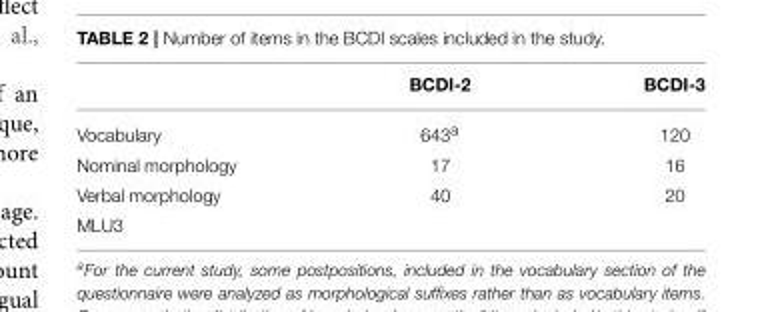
<table><thead><tr><td></td><td>BCDI-2</td><td>BCDI-3</td></tr></thead><tbody><tr><td>Vocabulary</td><td>643<sup>a</sup></td><td>120</td></tr><tr><td>Nominal morphology</td><td>17</td><td>16</td></tr><tr><td>Verbal morphology</td><td>40</td><td>20</td></tr><tr><td>MLU3</td><td></td><td></td></tr></tbody></table>